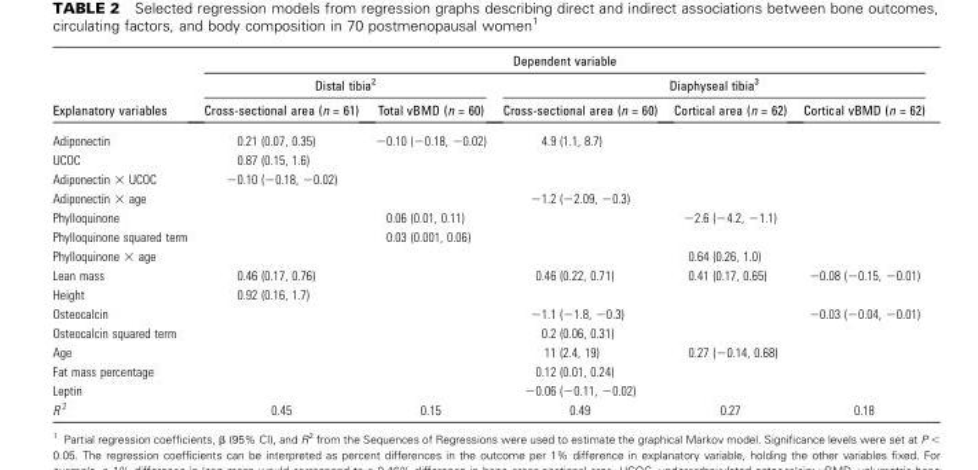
<table><thead><tr><td rowspan="3">Explanatory variables</td><td colspan="5">Dependent variable</td></tr><tr><td colspan="2">Distal tibia<sup>2</sup></td><td colspan="3">Diaphyseal tibia<sup>3</sup></td></tr><tr><td>Cross-sectional area (n = 61)</td><td>Total vBMD (n = 60)</td><td>Cross-sectional area (n = 60)</td><td>Cortical area (n = 62)</td><td>Cortical vBMD (n = 62)</td></tr></thead><tbody><tr><td>Adiponectin</td><td>0.21 (0.07, 0.35)</td><td>−0.10 (−0.18, −0.02)</td><td>4.9 (1.1, 8.7)</td><td></td><td></td></tr><tr><td>UCOC</td><td>0.87 (0.15, 1.6)</td><td></td><td></td><td></td><td></td></tr><tr><td>Adiponectin × UCOC</td><td>−0.10 (−0.18, −0.02)</td><td></td><td></td><td></td><td></td></tr><tr><td>Adiponectin × age</td><td></td><td></td><td>−1.2 (−2.09, −0.3)</td><td></td><td></td></tr><tr><td>Phylloquinone</td><td></td><td>0.06 (0.01, 0.11)</td><td></td><td>−2.6 (−4.2, −1.1)</td><td></td></tr><tr><td>Phylloquinone squared term</td><td></td><td>0.03 (0.001, 0.06)</td><td></td><td></td><td></td></tr><tr><td>Phylloquinone × age</td><td></td><td></td><td></td><td>0.64 (0.26, 1.0)</td><td></td></tr><tr><td>Lean mass</td><td>0.46 (0.17, 0.76)</td><td></td><td>0.46 (0.22, 0.71)</td><td>0.41 (0.17, 0.65)</td><td>−0.08 (−0.15, −0.01)</td></tr><tr><td>Height</td><td>0.92 (0.16, 1.7)</td><td></td><td></td><td></td><td></td></tr><tr><td>Osteocalcin</td><td></td><td></td><td>−1.1 (−1.8, −0.3)</td><td></td><td>−0.03 (−0.04, −0.01)</td></tr><tr><td>Osteocalcin squared term</td><td></td><td></td><td>0.2 (0.06, 0.31)</td><td></td><td></td></tr><tr><td>Age</td><td></td><td></td><td>11 (2.4, 19)</td><td>0.27 (−0.14, 0.68)</td><td></td></tr><tr><td>Fat mass percentage</td><td></td><td></td><td>0.12 (0.01, 0.24)</td><td></td><td></td></tr><tr><td>Leptin</td><td></td><td></td><td>−0.06 (−0.11, −0.02)</td><td></td><td></td></tr><tr><td>R <sup>2</sup></td><td>0.45</td><td>0.15</td><td>0.49</td><td>0.27</td><td>0.18</td></tr></tbody></table>